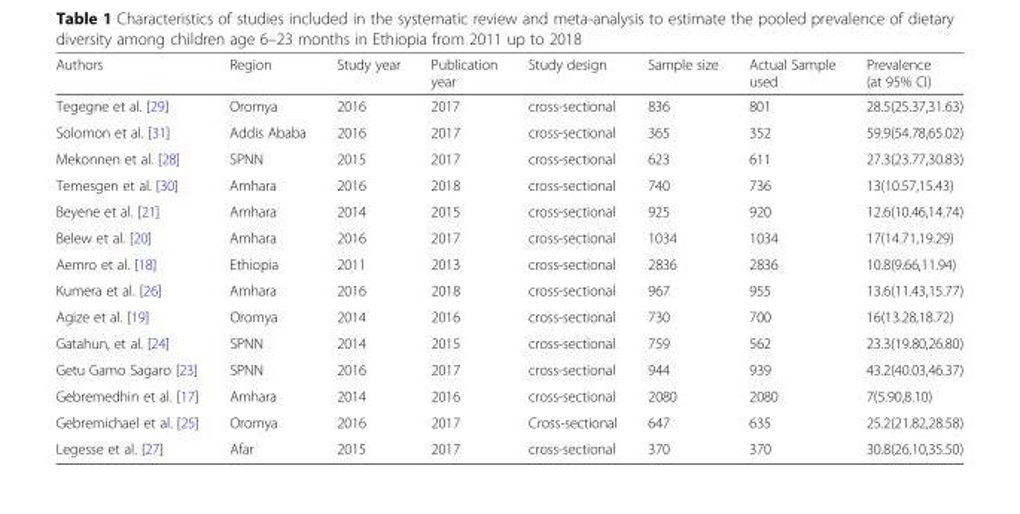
<table><thead><tr><td>Authors</td><td>Region</td><td>Study year</td><td>Publication year</td><td>Study design</td><td>Sample size</td><td>Actual Sample used</td><td>Prevalence (at 95% CI)</td></tr></thead><tbody><tr><td>Tegegne et al. [29]</td><td>Oromya</td><td>2016</td><td>2017</td><td>cross-sectional</td><td>836</td><td>801</td><td>28.5(25.37,31.63)</td></tr><tr><td>Solomon et al. [31]</td><td>Addis Ababa</td><td>2016</td><td>2017</td><td>cross-sectional</td><td>365</td><td>352</td><td>59.9(54.78,65.02)</td></tr><tr><td>Mekonnen et al. [28]</td><td>SPNN</td><td>2015</td><td>2017</td><td>cross-sectional</td><td>623</td><td>611</td><td>27.3(23.77,30.83)</td></tr><tr><td>Temesgen et al. [30]</td><td>Amhara</td><td>2016</td><td>2018</td><td>cross-sectional</td><td>740</td><td>736</td><td>13(10.57,15.43)</td></tr><tr><td>Beyene et al. [21]</td><td>Amhara</td><td>2014</td><td>2015</td><td>cross-sectional</td><td>925</td><td>920</td><td>12.6(10.46,14.74)</td></tr><tr><td>Belew et al. [20]</td><td>Amhara</td><td>2016</td><td>2017</td><td>cross-sectional</td><td>1034</td><td>1034</td><td>17(14.71,19.29)</td></tr><tr><td>Aemro et al. [18]</td><td>Ethiopia</td><td>2011</td><td>2013</td><td>cross-sectional</td><td>2836</td><td>2836</td><td>10.8(9.66,11.94)</td></tr><tr><td>Kumera et al. [26]</td><td>Amhara</td><td>2016</td><td>2018</td><td>cross-sectional</td><td>967</td><td>955</td><td>13.6(11.43,15.77)</td></tr><tr><td>Agize et al. [19]</td><td>Oromya</td><td>2014</td><td>2016</td><td>cross-sectional</td><td>730</td><td>700</td><td>16(13.28,18.72)</td></tr><tr><td>Gatahun, et al. [24]</td><td>SPNN</td><td>2014</td><td>2015</td><td>cross-sectional</td><td>759</td><td>562</td><td>23.3(19.80,26.80)</td></tr><tr><td>Getu Gamo Sagaro [23]</td><td>SPNN</td><td>2016</td><td>2017</td><td>cross-sectional</td><td>944</td><td>939</td><td>43.2(40.03,46.37)</td></tr><tr><td>Gebremedhin et al. [17]</td><td>Amhara</td><td>2014</td><td>2016</td><td>cross-sectional</td><td>2080</td><td>2080</td><td>7(5.90,8.10)</td></tr><tr><td>Gebremichael et al. [25]</td><td>Oromya</td><td>2016</td><td>2017</td><td>Cross-sectional</td><td>647</td><td>635</td><td>25.2(21.82,28.58)</td></tr><tr><td>Legesse et al. [27]</td><td>Afar</td><td>2015</td><td>2017</td><td>cross-sectional</td><td>370</td><td>370</td><td>30.8(26.10,35.50)</td></tr></tbody></table>